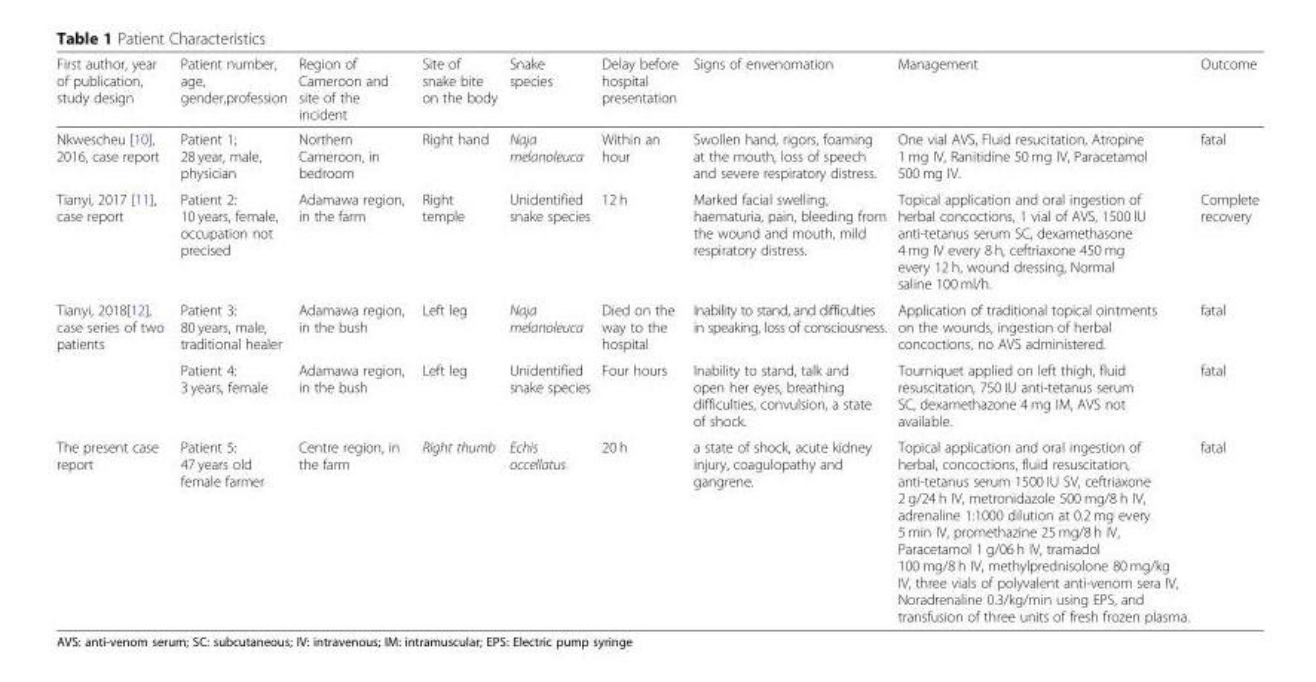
<table><thead><tr><td>First author, year of publication, study design</td><td>Patient number, age, gender,profession</td><td>Region of Cameroon and site of the incident</td><td>Site of snake bite on the body</td><td>Snake species</td><td>Delay before hospital presentation</td><td>Signs of envenomation</td><td>Management</td><td>Outcome</td></tr></thead><tbody><tr><td>Nkwescheu [10], 2016, case report</td><td>Patient 1; 28 year, male, physician</td><td>Northern Cameroon, in bedroom</td><td>Right hand</td><td>Naja melanoleuca</td><td>Within an hour</td><td>Swollen hand, rigors, foaming at the mouth, loss of speech and severe respiratory distress.</td><td>One vial AVS, Fluid resucitation, Atropine 1 mg IV, Ranitidine 50 mg IV, Paracetamol 500 mg IV.</td><td>fatal</td></tr><tr><td>Tianyi, 2017 [11], case report</td><td>Patient 2: 10 years, female, occupation not precised</td><td>Adamawa region, in the farm</td><td>Right temple</td><td>Unidentified snake species</td><td>12 h</td><td>Marked facial swelling, haematuria, pain, bleeding from the wound and mouth, mild respiratory distress.</td><td>Topical application and oral ingestion of herbal concoctions, 1 vial of AVS, 1500 IU anti-tetanus serum SC, dexamethasone 4 mg IV every 8 h, ceftriaxone 450 mg every 12 h, wound dressing, Normal saline 100 ml/h.</td><td>Complete recovery</td></tr><tr><td rowspan="2">Tianyi, 2018[12], case series of two patients</td><td>Patient 3: 80 years, male, traditional healer</td><td>Adamawa region, in the bush</td><td>Left leg</td><td>Naja melanoleuca</td><td>Died on the way to the hospital</td><td>Inability to stand, and difficulties in speaking, loss of consciousness.</td><td>Application of traditional topical ointments on the wounds, ingestion of herbal concoctions, no AVS administered.</td><td>fatal</td></tr><tr><td>Patient 4: 3 years, female</td><td>Adamawa region, in the bush</td><td>Left leg</td><td>Unidentified snake species</td><td>Four hours</td><td>Inability to stand, talk and open her eyes, breathing difficulties, convulsion, a state of shock.</td><td>Tourniquet applied on left thigh, fluid resuscitation, 750 IU anti-tetanus serum SC, dexamethazone 4 mg IM, AVS not available.</td><td>fatal</td></tr><tr><td>The present case report</td><td>Patient 5: 47 years old female farmer</td><td>Centre region, in the farm</td><td>Right thumb</td><td>Echis occellatus</td><td>20 h</td><td>a state of shock, acute kidney injury, coagulopathy and gangrene.</td><td>Topical application and oral ingestion of herbal, concoctions, fluid resuscitation, anti-tetanus serum 1500 IU SV, ceftriaxone 2 g/24 h IV, metronidazole 500 mg/8 h IV, adrenaline 1:1000 dilution at 0.2 mg every 5 min IV, promethazine 25 mg/8 h IV, Paracetamol 1 g/06 h IV, tramadol 100 mg/8 h IV, methylprednisolone 80 mg/kg IV, three vials of polyvalent anti-venom sera IV, Noradrenaline 0.3/kg/min using EPS, and transfusion of three units of fresh frozen plasma.</td><td>fatal</td></tr></tbody></table>